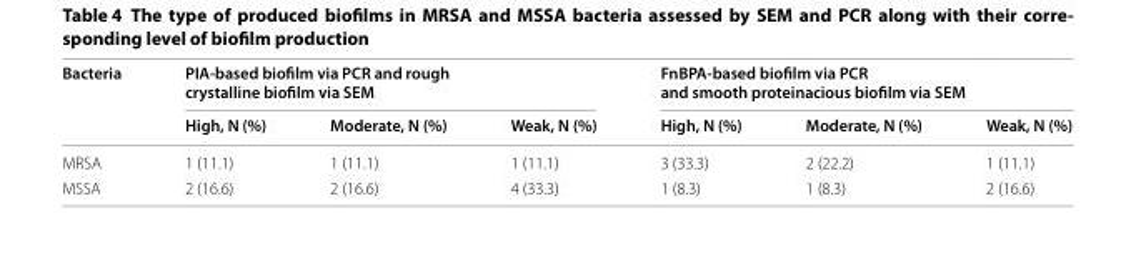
<table><thead><tr><td rowspan="2">Bacteria</td><td colspan="3">PIA‑based biofilm via PCR and rough crystalline biofilm via SEM</td><td colspan="3">FnBPA‑based biofilm via PCR and smooth proteinacious biofilm via SEM</td></tr><tr><td>High, N (%)</td><td>Moderate, N (%)</td><td>Weak, N (%)</td><td>High, N (%)</td><td>Moderate, N (%)</td><td>Weak, N (%)</td></tr></thead><tbody><tr><td>MRSA</td><td>1 (11.1)</td><td>1 (11.1)</td><td>1 (11.1)</td><td>3 (33.3)</td><td>2 (22.2)</td><td>1 (11.1)</td></tr><tr><td>MSSA</td><td>2 (16.6)</td><td>2 (16.6)</td><td>4 (33.3)</td><td>1 (8.3)</td><td>1 (8.3)</td><td>2 (16.6)</td></tr></tbody></table>